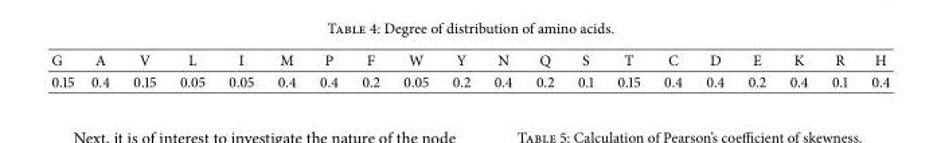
<table><tbody><tr><td>G</td><td>A</td><td>V</td><td>L</td><td>I</td><td>M</td><td>P</td><td>F</td><td>W</td><td>Y</td><td>N</td><td>Q</td><td>S</td><td>T</td><td>C</td><td>D</td><td>E</td><td>K</td><td>R</td><td>H</td></tr><tr><td>0.15</td><td>0.4</td><td>0.15</td><td>0.05</td><td>0.05</td><td>0.4</td><td>0.4</td><td>0.2</td><td>0.05</td><td>0.2</td><td>0.4</td><td>0.2</td><td>0.1</td><td>0.15</td><td>0.4</td><td>0.4</td><td>0.2</td><td>0.4</td><td>0.1</td><td>0.4</td></tr></tbody></table>